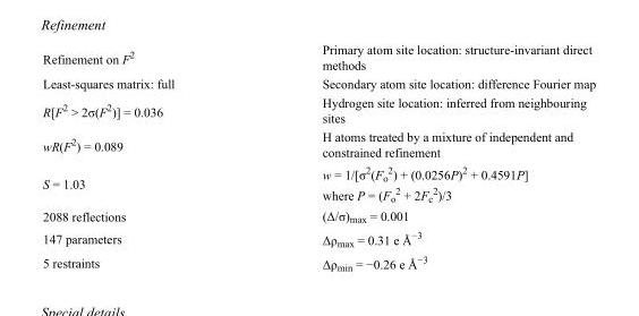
<table><tbody><tr><td>Refinement on F<sup>2</sup></td><td>Primary atom site location: structure-invariant direct methods</td></tr><tr><td>Least-squares matrix: full</td><td>Secondary atom site location: difference Fourier map</td></tr><tr><td>R[F<sup>2</sup> &gt; 2σ(F<sup>2</sup>)] = 0.036</td><td>Hydrogen site location: inferred from neighbouring sites</td></tr><tr><td>wR(F<sup>2</sup>) = 0.089</td><td>H atoms treated by a mixture of independent and constrained refinement</td></tr><tr><td>S = 1.03</td><td>w = 1/[σ<sup>2</sup>(F<sub>o</sub> <sup>2</sup>) + (0.0256P)<sup>2</sup> + 0.4591P] where P = (F<sub>o</sub> <sup>2</sup> + 2F<sub>c</sub> <sup>2</sup>)/3</td></tr><tr><td>2088 reflections</td><td>(Δ/σ)<sub>max</sub> = 0.001</td></tr><tr><td>147 parameters</td><td>Δρ<sub>max</sub> = 0.31 e Å<sup>−3</sup></td></tr><tr><td>5 restraints</td><td>Δρ<sub>min</sub> = −0.26 e Å<sup>−3</sup></td></tr></tbody></table>